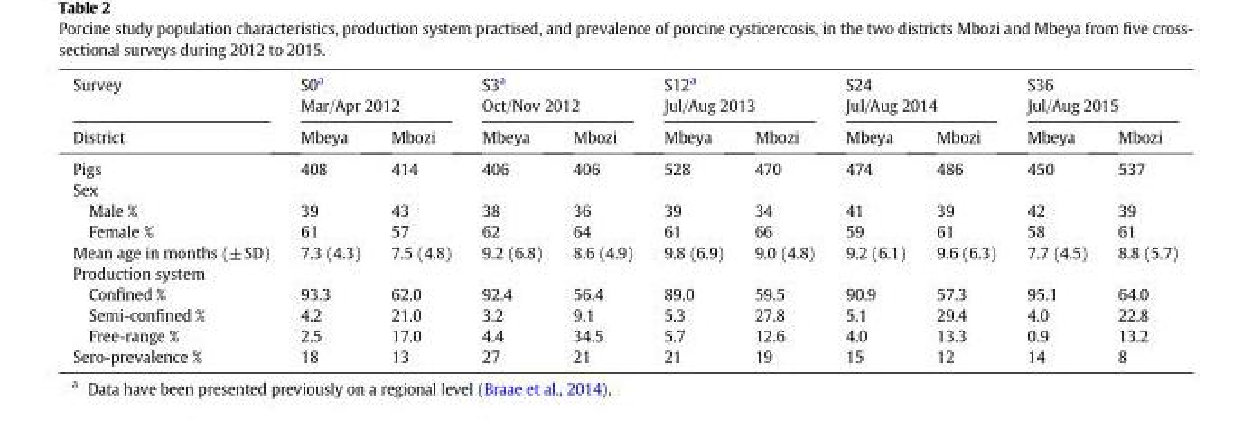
<table><thead><tr><td rowspan="2">Survey District</td><td colspan="2">S0<sup>a</sup> Mar/Apr 2012</td><td colspan="2">S3<sup>a</sup> Oct/Nov 2012</td><td colspan="2">S12<sup>a</sup> Jul/Aug 2013</td><td colspan="2">S24 Jul/Aug 2014</td><td colspan="2">S36 Jul/Aug 2015</td></tr><tr><td>Mbeya</td><td>Mbozi</td><td>Mbeya</td><td>Mbozi</td><td>Mbeya</td><td>Mbozi</td><td>Mbeya</td><td>Mbozi</td><td>Mbeya</td><td>Mbozi</td></tr></thead><tbody><tr><td>Pigs</td><td>408</td><td>414</td><td>406</td><td>406</td><td>528</td><td>470</td><td>474</td><td>486</td><td>450</td><td>537</td></tr><tr><td colspan="11">Sex</td></tr><tr><td>Male %</td><td>39</td><td>43</td><td>38</td><td>36</td><td>39</td><td>34</td><td>41</td><td>39</td><td>42</td><td>39</td></tr><tr><td>Female %</td><td>61</td><td>57</td><td>62</td><td>64</td><td>61</td><td>66</td><td>59</td><td>61</td><td>58</td><td>61</td></tr><tr><td>Mean age in months (±SD)</td><td>7.3 (4.3)</td><td>7.5 (4.8)</td><td>9.2 (6.8)</td><td>8.6 (4.9)</td><td>9.8 (6.9)</td><td>9.0 (4.8)</td><td>9.2 (6.1)</td><td>9.6 (6.3)</td><td>7.7 (4.5)</td><td>8.8 (5.7)</td></tr><tr><td colspan="11">Production system</td></tr><tr><td>Confined %</td><td>93.3</td><td>62.0</td><td>92.4</td><td>56.4</td><td>89.0</td><td>59.5</td><td>90.9</td><td>57.3</td><td>95.1</td><td>64.0</td></tr><tr><td>Semi-confined %</td><td>4.2</td><td>21.0</td><td>3.2</td><td>9.1</td><td>5.3</td><td>27.8</td><td>5.1</td><td>29.4</td><td>4.0</td><td>22.8</td></tr><tr><td>Free-range %</td><td>2.5</td><td>17.0</td><td>4.4</td><td>34.5</td><td>5.7</td><td>12.6</td><td>4.0</td><td>13.3</td><td>0.9</td><td>13.2</td></tr><tr><td>Sero-prevalence %</td><td>18</td><td>13</td><td>27</td><td>21</td><td>21</td><td>19</td><td>15</td><td>12</td><td>14</td><td>8</td></tr></tbody></table>